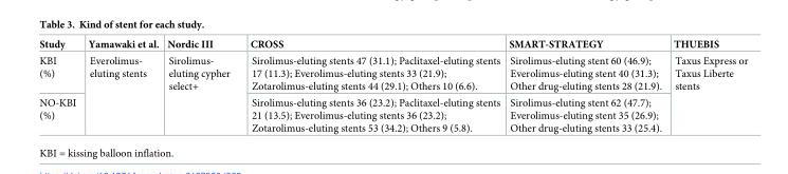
<table><thead><tr><td>Study</td><td>Yamawaki et al.</td><td>Nordic III</td><td>CROSS</td><td>SMART-STRATEGY</td><td>THUEBIS</td></tr></thead><tbody><tr><td>KBI (%)</td><td rowspan="2">Everolimus- eluting stents</td><td rowspan="2">Sirolimus- eluting cypher select+</td><td>Sirolimus-eluting stents 47 (31.1); Paclitaxel-eluting stents 17 (11.3); Everolimus-eluting stents 33 (21.9); Zotarolimus-eluting stents 44 (29.1); Others 10 (6.6).</td><td>Sirolimus-eluting stent 60 (46.9); Everolimus-eluting stent 40 (31.3); Other drug-eluting stents 28 (21.9).</td><td rowspan="2">Taxus Express or Taxus Liberte stents</td></tr><tr><td>NO-KBI (%)</td><td>Sirolimus-eluting stents 36 (23.2); Paclitaxel-eluting stents 21 (13.5); Everolimus-eluting stents 36 (23.2); Zotarolimus-eluting stents 53 (34.2); Others 9 (5.8).</td><td>Sirolimus-eluting stent 62 (47.7); Everolimus-eluting stent 35 (26.9); Other drug-eluting stents 33 (25.4).</td></tr></tbody></table>